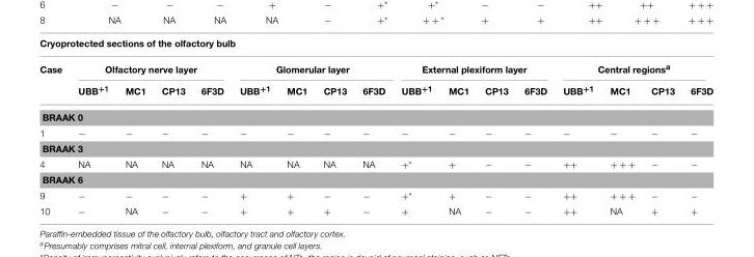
<table><thead><tr><td colspan="17">Cryoprotected sections of the olfactory bulb</td></tr><tr><td rowspan="2">Case</td><td colspan="4">Olfactory nerve layer</td><td colspan="4">Glomerular layer</td><td colspan="4">External plexiform layer</td><td colspan="4">Central regions<sup>a</sup></td></tr><tr><td>UBB<sup>+1</sup></td><td>MC1</td><td>CP13</td><td>6F3D</td><td>UBB<sup>+1</sup></td><td>MC1</td><td>CP13</td><td>6F3D</td><td>UBB<sup>+1</sup></td><td>MC1</td><td>CP13</td><td>6F3D</td><td>UBB<sup>+1</sup></td><td>MC1</td><td>CP13</td><td>6F3D</td></tr></thead><tbody><tr><td colspan="17">BRAAK 0</td></tr><tr><td>1</td><td>−</td><td>−</td><td>−</td><td>−</td><td>−</td><td>−</td><td>−</td><td>−</td><td>−</td><td>−</td><td>−</td><td>−</td><td>−</td><td>−</td><td>−</td><td>−</td></tr><tr><td colspan="17">BRAAK 3</td></tr><tr><td>4</td><td>NA</td><td>NA</td><td>NA</td><td>NA</td><td>NA</td><td>NA</td><td>NA</td><td>NA</td><td>+*</td><td>+</td><td>−</td><td>−</td><td>++</td><td>+ + +</td><td>−</td><td>−</td></tr><tr><td colspan="17">BRAAK 6</td></tr><tr><td>9</td><td>−</td><td>−</td><td>−</td><td>−</td><td>+</td><td>+</td><td>−</td><td>−</td><td>+*</td><td>+</td><td>−</td><td>−</td><td>++</td><td>+ + +</td><td>−</td><td>−</td></tr><tr><td>10</td><td>−</td><td>NA</td><td>−</td><td>−</td><td>+</td><td>+</td><td>+</td><td>−</td><td>+</td><td>NA</td><td>−</td><td>−</td><td>++</td><td>NA</td><td>+</td><td>+</td></tr></tbody></table>